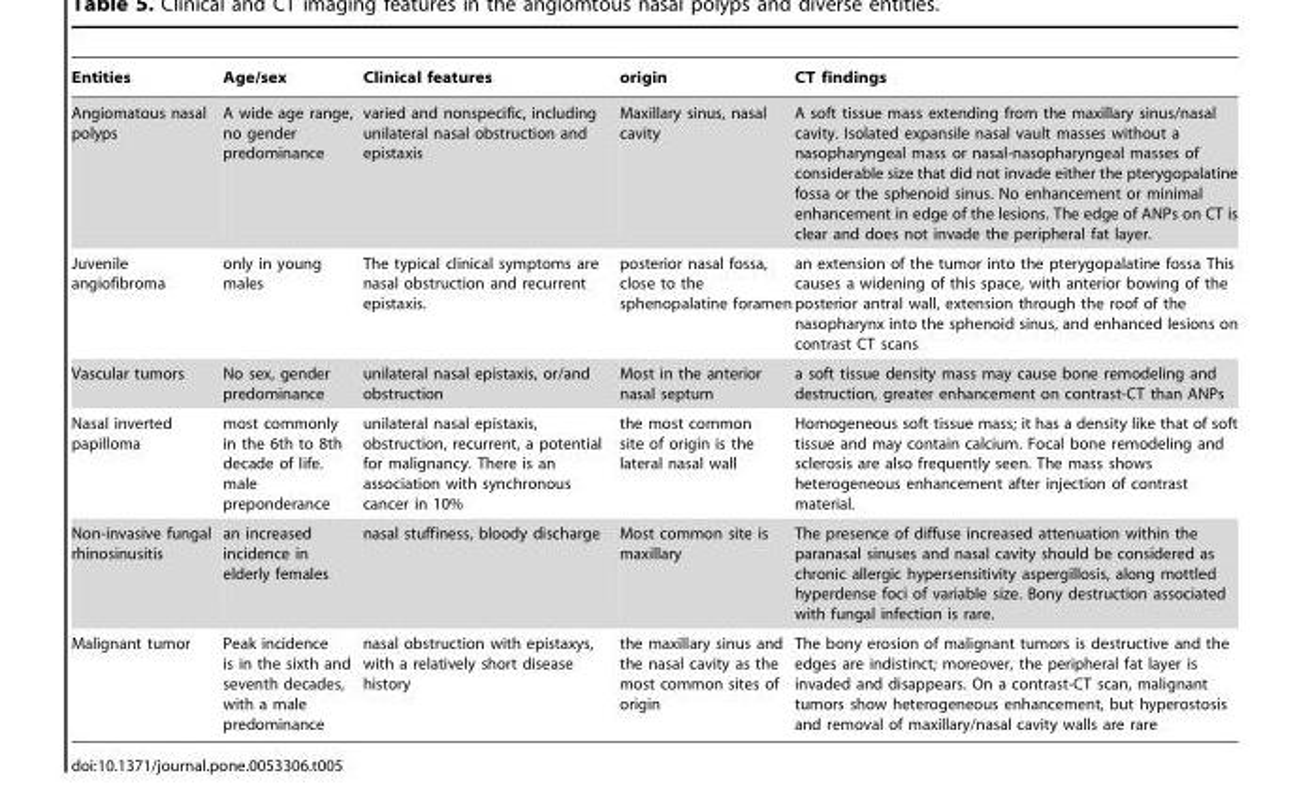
<table><thead><tr><td>Entities</td><td>Age/sex</td><td>Clinical features</td><td>origin</td><td>CT findings</td></tr></thead><tbody><tr><td>Angiomatous nasal polyps</td><td>A wide age range, no gender predominance</td><td>varied and nonspecific, including unilateral nasal obstruction and epistaxis</td><td>Maxillary sinus, nasal cavity</td><td>A soft tissue mass extending from the maxillary sinus/nasal cavity. Isolated expansile nasal vault masses without a nasopharyngeal mass or nasal-nasopharyngeal masses of considerable size that did not invade either the pterygopalatine fossa or the sphenoid sinus. No enhancement or minimal enhancement in edge of the lesions. The edge of ANPs on CT is clear and does not invade the peripheral fat layer.</td></tr><tr><td>Juvenile angiofibroma</td><td>only in young males</td><td>The typical clinical symptoms are nasal obstruction and recurrent epistaxis.</td><td>posterior nasal fossa, close to the sphenopalatine foramen</td><td>an extension of the tumor into the pterygopalatine fossa This causes a widening of this space, with anterior bowing of the posterior antral wall, extension through the roof of the nasopharynx into the sphenoid sinus, and enhanced lesions on contrast CT scans</td></tr><tr><td>Vascular tumors</td><td>No sex, gender predominance</td><td>unilateral nasal epistaxis, or/and obstruction</td><td>Most in the anterior nasal septum</td><td>a soft tissue density mass may cause bone remodeling and destruction, greater enhancement on contrast-CT than ANPs</td></tr><tr><td>Nasal inverted papilloma</td><td>most commonly in the 6th to 8th decade of life. male preponderance</td><td>unilateral nasal epistaxis, obstruction, recurrent, a potential for malignancy. There is an association with synchronous cancer in 10%</td><td>the most common site of origin is the lateral nasal wall</td><td>Homogeneous soft tissue mass; it has a density like that of soft tissue and may contain calcium. Focal bone remodeling and sclerosis are also frequently seen. The mass shows heterogeneous enhancement after injection of contrast material.</td></tr><tr><td>Non-invasive fungal rhinosinusitis</td><td>an increased incidence in elderly females</td><td>nasal stuffiness, bloody discharge</td><td>Most common site is maxillary</td><td>The presence of diffuse increased attenuation within the paranasal sinuses and nasal cavity should be considered as chronic allergic hypersensitivity aspergillosis, along mottled hyperdense foci of variable size. Bony destruction associated with fungal infection is rare.</td></tr><tr><td>Malignant tumor</td><td>Peak incidence is in the sixth and seventh decades, with a male predominance</td><td>nasal obstruction with epistaxys, with a relatively short disease history</td><td>the maxillary sinus and the nasal cavity as the most common sites of origin</td><td>The bony erosion of malignant tumors is destructive and the edges are indistinct; moreover, the peripheral fat layer is invaded and disappears. On a contrast-CT scan, malignant tumors show heterogeneous enhancement, but hyperostosis and removal of maxillary/nasal cavity walls are rare</td></tr></tbody></table>